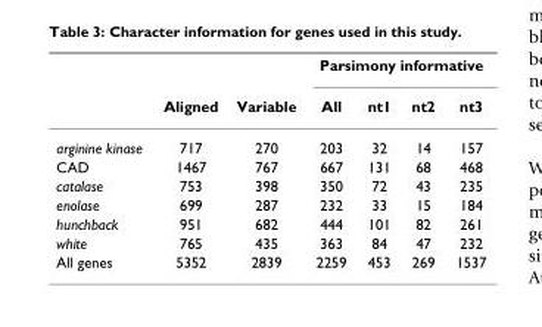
<table><thead><tr><td rowspan="2"></td><td rowspan="2">Aligned</td><td rowspan="2">Variable</td><td colspan="4">Parsimony informative</td></tr><tr><td>All</td><td>nt1</td><td>nt2</td><td>nt3</td></tr></thead><tbody><tr><td>arginine kinase</td><td>717</td><td>270</td><td>203</td><td>32</td><td>14</td><td>157</td></tr><tr><td>CAD</td><td>1467</td><td>767</td><td>667</td><td>131</td><td>68</td><td>468</td></tr><tr><td>catalase</td><td>753</td><td>398</td><td>350</td><td>72</td><td>43</td><td>235</td></tr><tr><td>enolase</td><td>699</td><td>287</td><td>232</td><td>33</td><td>15</td><td>184</td></tr><tr><td>hunchback</td><td>951</td><td>682</td><td>444</td><td>101</td><td>82</td><td>261</td></tr><tr><td>white</td><td>765</td><td>435</td><td>363</td><td>84</td><td>47</td><td>232</td></tr><tr><td>All genes</td><td>5352</td><td>2839</td><td>2259</td><td>453</td><td>269</td><td>1537</td></tr></tbody></table>